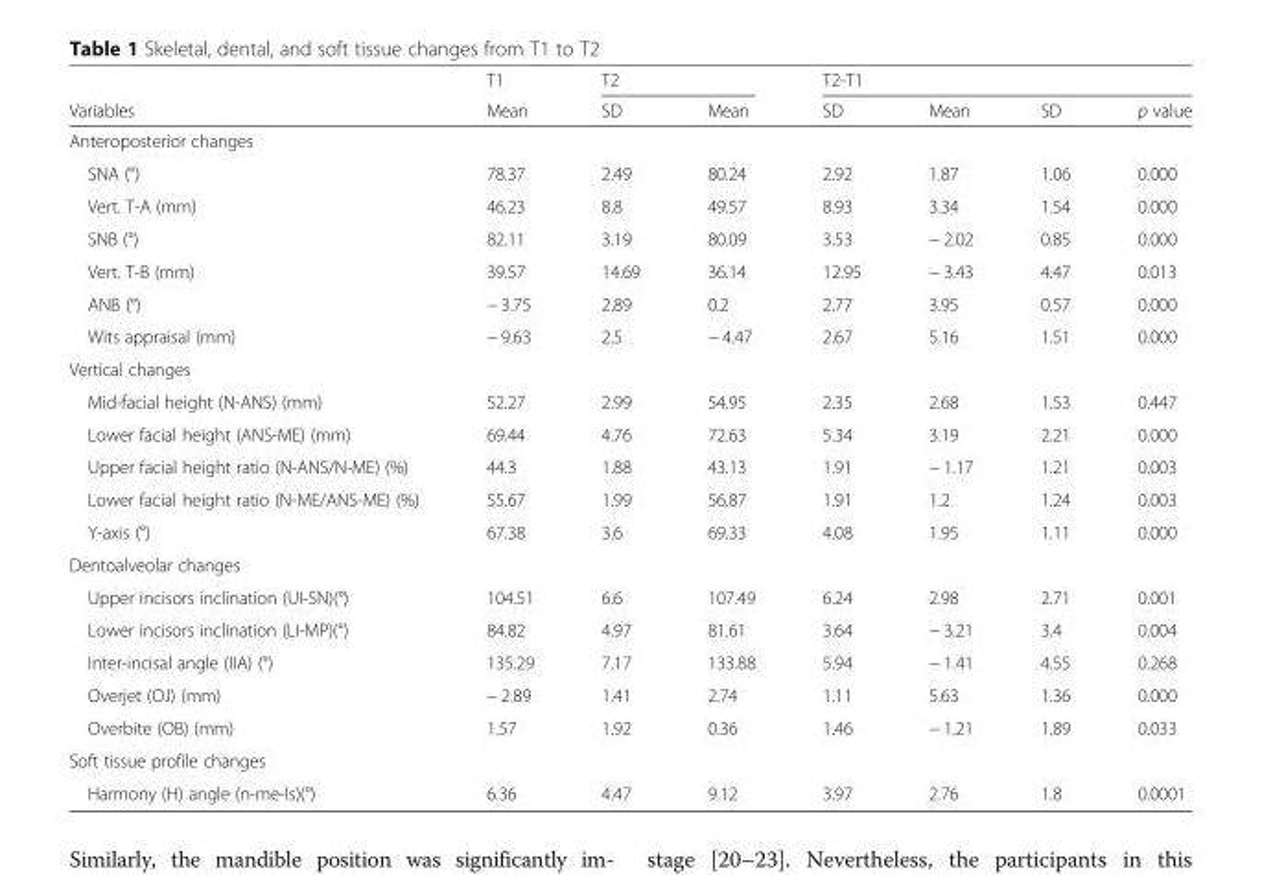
<table><thead><tr><td rowspan="2">Variables</td><td rowspan="2">T1 Mean</td><td colspan="2">T2</td><td colspan="4">T2-T1</td></tr><tr><td>SD</td><td>Mean</td><td>SD</td><td>Mean</td><td>SD</td><td>p value</td></tr></thead><tbody><tr><td colspan="8">Anteroposterior changes</td></tr><tr><td>SNA (°)</td><td>78.37</td><td>2.49</td><td>80.24</td><td>2.92</td><td>1.87</td><td>1.06</td><td>0.000</td></tr><tr><td>Vert. T-A (mm)</td><td>46.23</td><td>8.8</td><td>49.57</td><td>8.93</td><td>3.34</td><td>1.54</td><td>0.000</td></tr><tr><td>SNB (°)</td><td>82.11</td><td>3.19</td><td>80.09</td><td>3.53</td><td>− 2.02</td><td>0.85</td><td>0.000</td></tr><tr><td>Vert. T-B (mm)</td><td>39.57</td><td>14.69</td><td>36.14</td><td>12.95</td><td>− 3.43</td><td>4.47</td><td>0.013</td></tr><tr><td>ANB (°)</td><td>− 3.75</td><td>2.89</td><td>0.2</td><td>2.77</td><td>3.95</td><td>0.57</td><td>0.000</td></tr><tr><td>Wits appraisal (mm)</td><td>− 9.63</td><td>2.5</td><td>− 4.47</td><td>2.67</td><td>5.16</td><td>1.51</td><td>0.000</td></tr><tr><td colspan="8">Vertical changes</td></tr><tr><td>Mid-facial height (N-ANS) (mm)</td><td>52.27</td><td>2.99</td><td>54.95</td><td>2.35</td><td>2.68</td><td>1.53</td><td>0.447</td></tr><tr><td>Lower facial height (ANS-ME) (mm)</td><td>69.44</td><td>4.76</td><td>72.63</td><td>5.34</td><td>3.19</td><td>2.21</td><td>0.000</td></tr><tr><td>Upper facial height ratio (N-ANS/N-ME) (%)</td><td>44.3</td><td>1.88</td><td>43.13</td><td>1.91</td><td>− 1.17</td><td>1.21</td><td>0.003</td></tr><tr><td>Lower facial height ratio (N-ME/ANS-ME) (%)</td><td>55.67</td><td>1.99</td><td>56.87</td><td>1.91</td><td>1.2</td><td>1.24</td><td>0.003</td></tr><tr><td>Y-axis (°)</td><td>67.38</td><td>3.6</td><td>69.33</td><td>4.08</td><td>1.95</td><td>1.11</td><td>0.000</td></tr><tr><td colspan="8">Dentoalveolar changes</td></tr><tr><td>Upper incisors inclination (UI-SN)(°)</td><td>104.51</td><td>6.6</td><td>107.49</td><td>6.24</td><td>2.98</td><td>2.71</td><td>0.001</td></tr><tr><td>Lower incisors inclination (LI-MP)(°)</td><td>84.82</td><td>4.97</td><td>81.61</td><td>3.64</td><td>− 3.21</td><td>3.4</td><td>0.004</td></tr><tr><td>Inter-incisal angle (IIA) (°)</td><td>135.29</td><td>7.17</td><td>133.88</td><td>5.94</td><td>− 1.41</td><td>4.55</td><td>0.268</td></tr><tr><td>Overjet (OJ) (mm)</td><td>− 2.89</td><td>1.41</td><td>2.74</td><td>1.11</td><td>5.63</td><td>1.36</td><td>0.000</td></tr><tr><td>Overbite (OB) (mm)</td><td>1.57</td><td>1.92</td><td>0.36</td><td>1.46</td><td>− 1.21</td><td>1.89</td><td>0.033</td></tr><tr><td colspan="8">Soft tissue profile changes</td></tr><tr><td>Harmony (H) angle (n-me-ls)(°)</td><td>6.36</td><td>4.47</td><td>9.12</td><td>3.97</td><td>2.76</td><td>1.8</td><td>0.0001</td></tr></tbody></table>